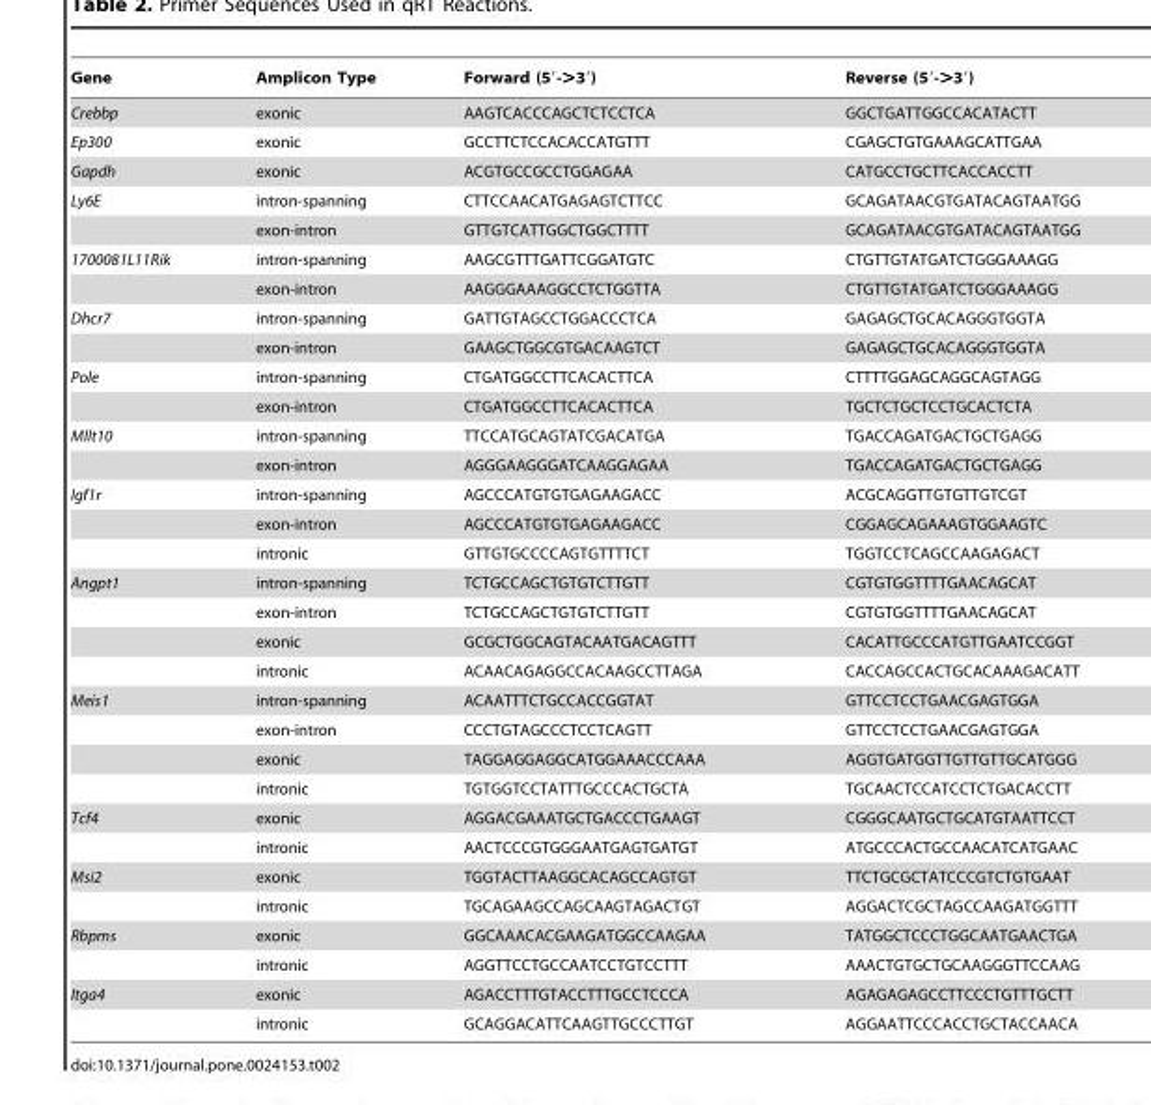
<table><thead><tr><td>Gene</td><td>Amplicon Type</td><td>Forward (5′-&gt;3′)</td><td>Reverse (5′-&gt;3′)</td></tr></thead><tbody><tr><td>Crebbp</td><td>exonic</td><td>AAGTCACCCAGCTCTCCTCA</td><td>GGCTGATTGGCCACATACTT</td></tr><tr><td>Ep300</td><td>exonic</td><td>GCCTTCTCCACACCATGTTT</td><td>CGAGCTGTGAAAGCATTGAA</td></tr><tr><td>Gapdh</td><td>exonic</td><td>ACGTGCCGCCTGGAGAA</td><td>CATGCCTGCTTCACCACCTT</td></tr><tr><td rowspan="2">Ly6E</td><td>intron-spanning</td><td>CTTCCAACATGAGAGTCTTCC</td><td>GCAGATAACGTGATACAGTAATGG</td></tr><tr><td>exon-intron</td><td>GTTGTCATTGGCTGGCTTTT</td><td>GCAGATAACGTGATACAGTAATGG</td></tr><tr><td rowspan="2">1700081L11Rik</td><td>intron-spanning</td><td>AAGCGTTTGATTCGGATGTC</td><td>CTGTTGTATGATCTGGGAAAGG</td></tr><tr><td>exon-intron</td><td>AAGGGAAAGGCCTCTGGTTA</td><td>CTGTTGTATGATCTGGGAAAGG</td></tr><tr><td rowspan="2">Dhcr7</td><td>intron-spanning</td><td>GATTGTAGCCTGGACCCTCA</td><td>GAGAGCTGCACAGGGTGGTA</td></tr><tr><td>exon-intron</td><td>GAAGCTGGCGTGACAAGTCT</td><td>GAGAGCTGCACAGGGTGGTA</td></tr><tr><td rowspan="2">Pole</td><td>intron-spanning</td><td>CTGATGGCCTTCACACTTCA</td><td>CTTTTGGAGCAGGCAGTAGG</td></tr><tr><td>exon-intron</td><td>CTGATGGCCTTCACACTTCA</td><td>TGCTCTGCTCCTGCACTCTA</td></tr><tr><td rowspan="2">Mllt10</td><td>intron-spanning</td><td>TTCCATGCAGTATCGACATGA</td><td>TGACCAGATGACTGCTGAGG</td></tr><tr><td>exon-intron</td><td>AGGGAAGGGATCAAGGAGAA</td><td>TGACCAGATGACTGCTGAGG</td></tr><tr><td rowspan="3">Igf1r</td><td>intron-spanning</td><td>AGCCCATGTGTGAGAAGACC</td><td>ACGCAGGTTGTGTTGTCGT</td></tr><tr><td>exon-intron</td><td>AGCCCATGTGTGAGAAGACC</td><td>CGGAGCAGAAAGTGGAAGTC</td></tr><tr><td>intronic</td><td>GTTGTGCCCCAGTGTTTTCT</td><td>TGGTCCTCAGCCAAGAGACT</td></tr><tr><td rowspan="4">Angpt1</td><td>intron-spanning</td><td>TCTGCCAGCTGTGTCTTGTT</td><td>CGTGTGGTTTTGAACAGCAT</td></tr><tr><td>exon-intron</td><td>TCTGCCAGCTGTGTCTTGTT</td><td>CGTGTGGTTTTGAACAGCAT</td></tr><tr><td>exonic</td><td>GCGCTGGCAGTACAATGACAGTTT</td><td>CACATTGCCCATGTTGAATCCGGT</td></tr><tr><td>intronic</td><td>ACAACAGAGGCCACAAGCCTTAGA</td><td>CACCAGCCACTGCACAAAGACATT</td></tr><tr><td rowspan="4">Meis1</td><td>intron-spanning</td><td>ACAATTTCTGCCACCGGTAT</td><td>GTTCCTCCTGAACGAGTGGA</td></tr><tr><td>exon-intron</td><td>CCCTGTAGCCCTCCTCAGTT</td><td>GTTCCTCCTGAACGAGTGGA</td></tr><tr><td>exonic</td><td>TAGGAGGAGGCATGGAAACCCAAA</td><td>AGGTGATGGTTGTTGTTGCATGGG</td></tr><tr><td>intronic</td><td>TGTGGTCCTATTTGCCCACTGCTA</td><td>TGCAACTCCATCCTCTGACACCTT</td></tr><tr><td rowspan="2">Tcf4</td><td>exonic</td><td>AGGACGAAATGCTGACCCTGAAGT</td><td>CGGGCAATGCTGCATGTAATTCCT</td></tr><tr><td>intronic</td><td>AACTCCCGTGGGAATGAGTGATGT</td><td>ATGCCCACTGCCAACATCATGAAC</td></tr><tr><td rowspan="2">Msi2</td><td>exonic</td><td>TGGTACTTAAGGCACAGCCAGTGT</td><td>TTCTGCGCTATCCCGTCTGTGAAT</td></tr><tr><td>intronic</td><td>TGCAGAAGCCAGCAAGTAGACTGT</td><td>AGGACTCGCTAGCCAAGATGGTTT</td></tr><tr><td rowspan="2">Rbpms</td><td>exonic</td><td>GGCAAACACGAAGATGGCCAAGAA</td><td>TATGGCTCCCTGGCAATGAACTGA</td></tr><tr><td>intronic</td><td>AGGTTCCTGCCAATCCTGTCCTTT</td><td>AAACTGTGCTGCAAGGGTTCCAAG</td></tr><tr><td rowspan="2">Itga4</td><td>exonic</td><td>AGACCTTTGTACCTTTGCCTCCCA</td><td>AGAGAGAGCCTTCCCTGTTTGCTT</td></tr><tr><td>intronic</td><td>GCAGGACATTCAAGTTGCCCTTGT</td><td>AGGAATTCCCACCTGCTACCAACA</td></tr></tbody></table>